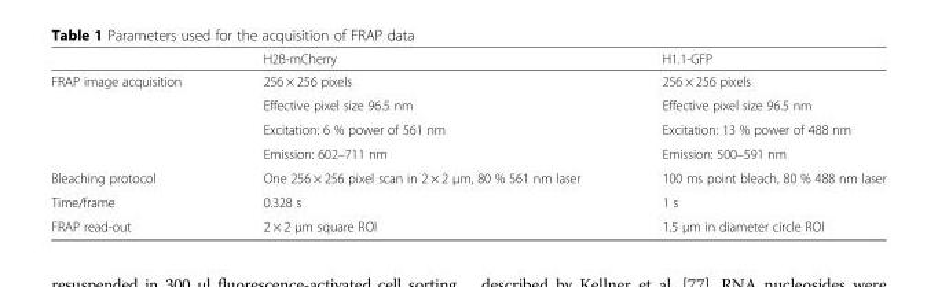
<table><thead><tr><td></td><td>H2B-mCherry</td><td>H1.1-GFP</td></tr></thead><tbody><tr><td rowspan="4">FRAP image acquisition</td><td>256 × 256 pixels</td><td>256 × 256 pixels</td></tr><tr><td>Effective pixel size 96.5 nm</td><td>Effective pixel size 96.5 nm</td></tr><tr><td>Excitation: 6 % power of 561 nm</td><td>Excitation: 13 % power of 488 nm</td></tr><tr><td>Emission: 602–711 nm</td><td>Emission: 500–591 nm</td></tr><tr><td>Bleaching protocol</td><td>One 256 × 256 pixel scan in 2 × 2 μm, 80 % 561 nm laser</td><td>100 ms point bleach, 80 % 488 nm laser</td></tr><tr><td>Time/frame</td><td>0.328 s</td><td>1 s</td></tr><tr><td>FRAP read-out</td><td>2 × 2 μm square ROI</td><td>1.5 μm in diameter circle ROI</td></tr></tbody></table>